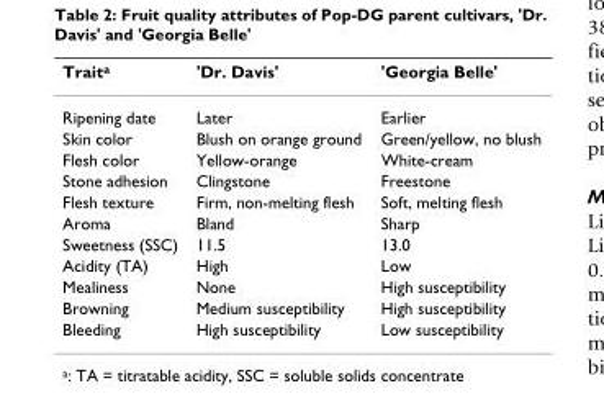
<table><thead><tr><td>Trait<sup>a</sup></td><td>&#x27;Dr. Davis&#x27;</td><td>&#x27;Georgia Belle&#x27;</td></tr></thead><tbody><tr><td>Ripening date</td><td>Later</td><td>Earlier</td></tr><tr><td>Skin color</td><td>Blush on orange ground</td><td>Green/yellow, no blush</td></tr><tr><td>Flesh color</td><td>Yellow-orange</td><td>White-cream</td></tr><tr><td>Stone adhesion</td><td>Clingstone</td><td>Freestone</td></tr><tr><td>Flesh texture</td><td>Firm, non-melting flesh</td><td>Soft, melting flesh</td></tr><tr><td>Aroma</td><td>Bland</td><td>Sharp</td></tr><tr><td>Sweetness (SSC)</td><td>11.5</td><td>13.0</td></tr><tr><td>Acidity (TA)</td><td>High</td><td>Low</td></tr><tr><td>Mealiness</td><td>None</td><td>High susceptibility</td></tr><tr><td>Browning</td><td>Medium susceptibility</td><td>High susceptibility</td></tr><tr><td>Bleeding</td><td>High susceptibility</td><td>Low susceptibility</td></tr></tbody></table>